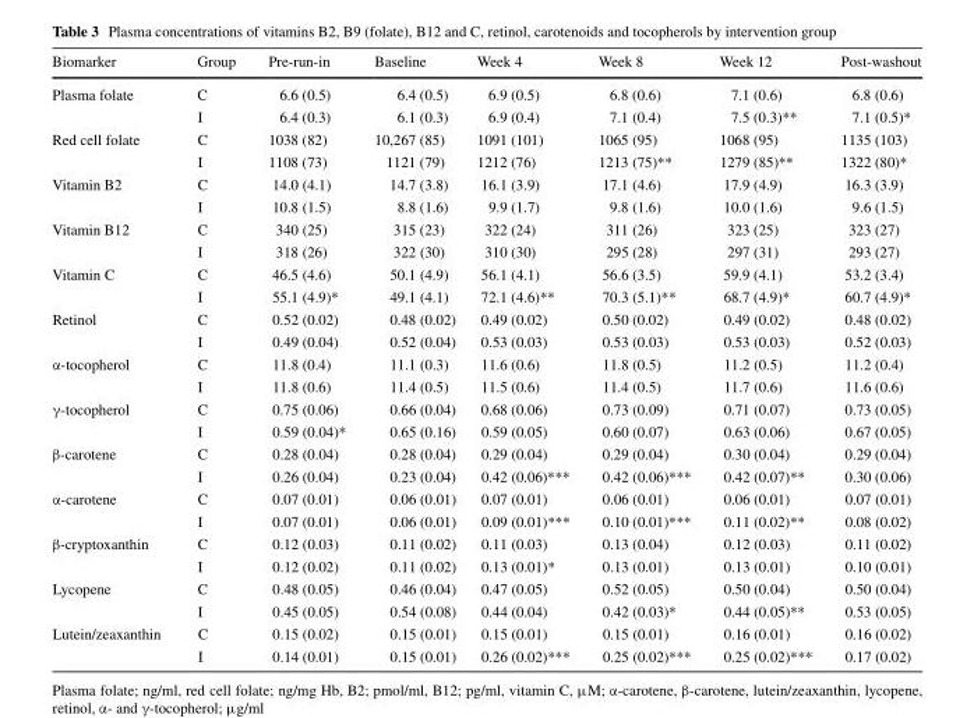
<table><thead><tr><td>Biomarker</td><td>Group</td><td>Pre-run-in</td><td>Baseline</td><td>Week 4</td><td>Week 8</td><td>Week 12</td><td>Post-washout</td></tr></thead><tbody><tr><td rowspan="2">Plasma folate</td><td>C</td><td>6.6 (0.5)</td><td>6.4 (0.5)</td><td>6.9 (0.5)</td><td>6.8 (0.6)</td><td>7.1 (0.6)</td><td>6.8 (0.6)</td></tr><tr><td>I</td><td>6.4 (0.3)</td><td>6.1 (0.3)</td><td>6.9 (0.4)</td><td>7.1 (0.4)</td><td>7.5 (0.3)**</td><td>7.1 (0.5)*</td></tr><tr><td rowspan="2">Red cell folate</td><td>C</td><td>1038 (82)</td><td>10,267 (85)</td><td>1091 (101)</td><td>1065 (95)</td><td>1068 (95)</td><td>1135 (103)</td></tr><tr><td>I</td><td>1108 (73)</td><td>1121 (79)</td><td>1212 (76)</td><td>1213 (75)**</td><td>1279 (85)**</td><td>1322 (80)*</td></tr><tr><td rowspan="2">Vitamin B2</td><td>C</td><td>14.0 (4.1)</td><td>14.7 (3.8)</td><td>16.1 (3.9)</td><td>17.1 (4.6)</td><td>17.9 (4.9)</td><td>16.3 (3.9)</td></tr><tr><td>I</td><td>10.8 (1.5)</td><td>8.8 (1.6)</td><td>9.9 (1.7)</td><td>9.8 (1.6)</td><td>10.0 (1.6)</td><td>9.6 (1.5)</td></tr><tr><td rowspan="2">Vitamin B12</td><td>C</td><td>340 (25)</td><td>315 (23)</td><td>322 (24)</td><td>311 (26)</td><td>323 (25)</td><td>323 (27)</td></tr><tr><td>I</td><td>318 (26)</td><td>322 (30)</td><td>310 (30)</td><td>295 (28)</td><td>297 (31)</td><td>293 (27)</td></tr><tr><td rowspan="2">Vitamin C</td><td>C</td><td>46.5 (4.6)</td><td>50.1 (4.9)</td><td>56.1 (4.1)</td><td>56.6 (3.5)</td><td>59.9 (4.1)</td><td>53.2 (3.4)</td></tr><tr><td>I</td><td>55.1 (4.9)*</td><td>49.1 (4.1)</td><td>72.1 (4.6)**</td><td>70.3 (5.1)**</td><td>68.7 (4.9)*</td><td>60.7 (4.9)*</td></tr><tr><td rowspan="2">Retinol</td><td>C</td><td>0.52 (0.02)</td><td>0.48 (0.02)</td><td>0.49 (0.02)</td><td>0.50 (0.02)</td><td>0.49 (0.02)</td><td>0.48 (0.02)</td></tr><tr><td>I</td><td>0.49 (0.04)</td><td>0.52 (0.04)</td><td>0.53 (0.03)</td><td>0.53 (0.03)</td><td>0.53 (0.03)</td><td>0.52 (0.03)</td></tr><tr><td rowspan="2">α-tocopherol</td><td>C</td><td>11.8 (0.4)</td><td>11.1 (0.3)</td><td>11.6 (0.6)</td><td>11.8 (0.5)</td><td>11.2 (0.5)</td><td>11.2 (0.4)</td></tr><tr><td>I</td><td>11.8 (0.6)</td><td>11.4 (0.5)</td><td>11.5 (0.6)</td><td>11.4 (0.5)</td><td>11.7 (0.6)</td><td>11.6 (0.6)</td></tr><tr><td rowspan="2">γ-tocopherol</td><td>C</td><td>0.75 (0.06)</td><td>0.66 (0.04)</td><td>0.68 (0.06)</td><td>0.73 (0.09)</td><td>0.71 (0.07)</td><td>0.73 (0.05)</td></tr><tr><td>I</td><td>0.59 (0.04)*</td><td>0.65 (0.16)</td><td>0.59 (0.05)</td><td>0.60 (0.07)</td><td>0.63 (0.06)</td><td>0.67 (0.05)</td></tr><tr><td rowspan="2">β-carotene</td><td>C</td><td>0.28 (0.04)</td><td>0.28 (0.04)</td><td>0.29 (0.04)</td><td>0.29 (0.04)</td><td>0.30 (0.04)</td><td>0.29 (0.04)</td></tr><tr><td>I</td><td>0.26 (0.04)</td><td>0.23 (0.04)</td><td>0.42 (0.06)***</td><td>0.42 (0.06)***</td><td>0.42 (0.07)**</td><td>0.30 (0.06)</td></tr><tr><td rowspan="2">α-carotene</td><td>C</td><td>0.07 (0.01)</td><td>0.06 (0.01)</td><td>0.07 (0.01)</td><td>0.06 (0.01)</td><td>0.06 (0.01)</td><td>0.07 (0.01)</td></tr><tr><td>I</td><td>0.07 (0.01)</td><td>0.06 (0.01)</td><td>0.09 (0.01)***</td><td>0.10 (0.01)***</td><td>0.11 (0.02)**</td><td>0.08 (0.02)</td></tr><tr><td rowspan="2">β-cryptoxanthin</td><td>C</td><td>0.12 (0.03)</td><td>0.11 (0.02)</td><td>0.11 (0.03)</td><td>0.13 (0.04)</td><td>0.12 (0.03)</td><td>0.11 (0.02)</td></tr><tr><td>I</td><td>0.12 (0.02)</td><td>0.11 (0.02)</td><td>0.13 (0.01)*</td><td>0.13 (0.01)</td><td>0.13 (0.01)</td><td>0.10 (0.01)</td></tr><tr><td rowspan="2">Lycopene</td><td>C</td><td>0.48 (0.05)</td><td>0.46 (0.04)</td><td>0.47 (0.05)</td><td>0.52 (0.05)</td><td>0.50 (0.04)</td><td>0.50 (0.04)</td></tr><tr><td>I</td><td>0.45 (0.05)</td><td>0.54 (0.08)</td><td>0.44 (0.04)</td><td>0.42 (0.03)*</td><td>0.44 (0.05)**</td><td>0.53 (0.05)</td></tr><tr><td rowspan="2">Lutein/zeaxanthin</td><td>C</td><td>0.15 (0.02)</td><td>0.15 (0.01)</td><td>0.15 (0.01)</td><td>0.15 (0.01)</td><td>0.16 (0.01)</td><td>0.16 (0.02)</td></tr><tr><td>I</td><td>0.14 (0.01)</td><td>0.15 (0.01)</td><td>0.26 (0.02)***</td><td>0.25 (0.02)***</td><td>0.25 (0.02)***</td><td>0.17 (0.02)</td></tr></tbody></table>